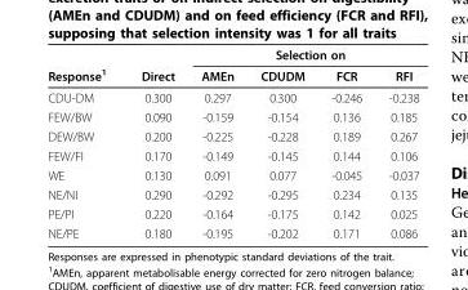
<table><thead><tr><td rowspan="2">Response<sup>1</sup></td><td rowspan="2">Direct</td><td colspan="4">Selection on</td></tr><tr><td>AMEn</td><td>CDUDM</td><td>FCR</td><td>RFI</td></tr></thead><tbody><tr><td>CDU-DM</td><td>0.300</td><td>0.297</td><td>0.300</td><td>-0.246</td><td>-0.238</td></tr><tr><td>FEW/BW</td><td>0.090</td><td>-0.159</td><td>-0.154</td><td>0.136</td><td>0.185</td></tr><tr><td>DEW/BW</td><td>0.200</td><td>-0.225</td><td>-0.228</td><td>0.189</td><td>0.267</td></tr><tr><td>FEW/FI</td><td>0.170</td><td>-0.149</td><td>-0.145</td><td>0.144</td><td>0.106</td></tr><tr><td>WE</td><td>0.130</td><td>0.091</td><td>0.077</td><td>-0.045</td><td>-0.037</td></tr><tr><td>NE/NI</td><td>0.290</td><td>-0.292</td><td>-0.295</td><td>0.234</td><td>0.135</td></tr><tr><td>PE/PI</td><td>0.220</td><td>-0.164</td><td>-0.175</td><td>0.142</td><td>0.025</td></tr><tr><td>NE/PE</td><td>0.180</td><td>-0.195</td><td>-0.202</td><td>0.171</td><td>0.086</td></tr></tbody></table>